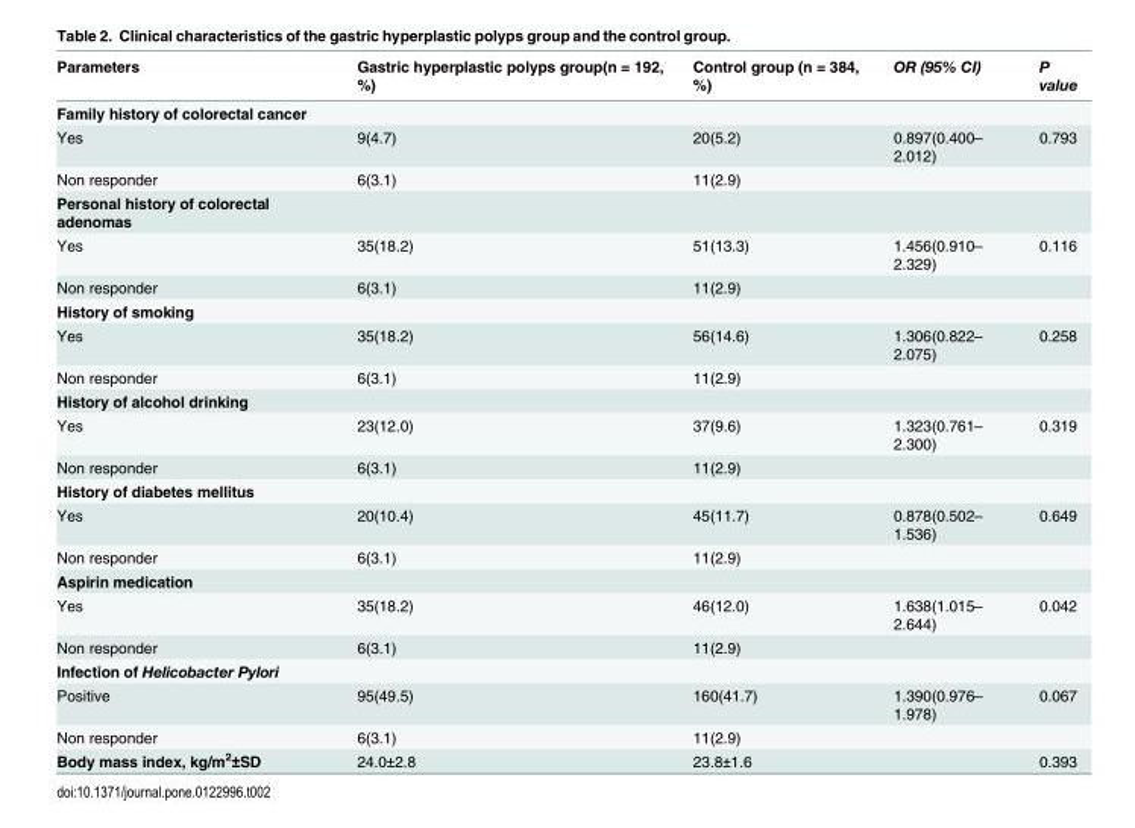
<table><thead><tr><td>Parameters</td><td>Gastric hyperplastic polyps group(n = 192, %)</td><td>Control group (n = 384, %)</td><td>OR (95% CI)</td><td>P value</td></tr></thead><tbody><tr><td colspan="5">Family history of colorectal cancer</td></tr><tr><td>Yes</td><td>9(4.7)</td><td>20(5.2)</td><td>0.897(0.400– 2.012)</td><td>0.793</td></tr><tr><td>Non responder</td><td>6(3.1)</td><td>11(2.9)</td><td></td><td></td></tr><tr><td colspan="5">Personal history of colorectal adenomas</td></tr><tr><td>Yes</td><td>35(18.2)</td><td>51(13.3)</td><td>1.456(0.910– 2.329)</td><td>0.116</td></tr><tr><td>Non responder</td><td>6(3.1)</td><td>11(2.9)</td><td></td><td></td></tr><tr><td colspan="5">History of smoking</td></tr><tr><td>Yes</td><td>35(18.2)</td><td>56(14.6)</td><td>1.306(0.822– 2.075)</td><td>0.258</td></tr><tr><td>Non responder</td><td>6(3.1)</td><td>11(2.9)</td><td></td><td></td></tr><tr><td colspan="5">History of alcohol drinking</td></tr><tr><td>Yes</td><td>23(12.0)</td><td>37(9.6)</td><td>1.323(0.761– 2.300)</td><td>0.319</td></tr><tr><td>Non responder</td><td>6(3.1)</td><td>11(2.9)</td><td></td><td></td></tr><tr><td colspan="5">History of diabetes mellitus</td></tr><tr><td>Yes</td><td>20(10.4)</td><td>45(11.7)</td><td>0.878(0.502– 1.536)</td><td>0.649</td></tr><tr><td>Non responder</td><td>6(3.1)</td><td>11(2.9)</td><td></td><td></td></tr><tr><td colspan="5">Aspirin medication</td></tr><tr><td>Yes</td><td>35(18.2)</td><td>46(12.0)</td><td>1.638(1.015– 2.644)</td><td>0.042</td></tr><tr><td>Non responder</td><td>6(3.1)</td><td>11(2.9)</td><td></td><td></td></tr><tr><td colspan="5">Infection of Helicobacter Pylori</td></tr><tr><td>Positive</td><td>95(49.5)</td><td>160(41.7)</td><td>1.390(0.976– 1.978)</td><td>0.067</td></tr><tr><td>Non responder</td><td>6(3.1)</td><td>11(2.9)</td><td></td><td></td></tr><tr><td>Body mass index, kg/m<sup>2</sup>±SD</td><td>24.0±2.8</td><td>23.8±1.6</td><td></td><td>0.393</td></tr></tbody></table>